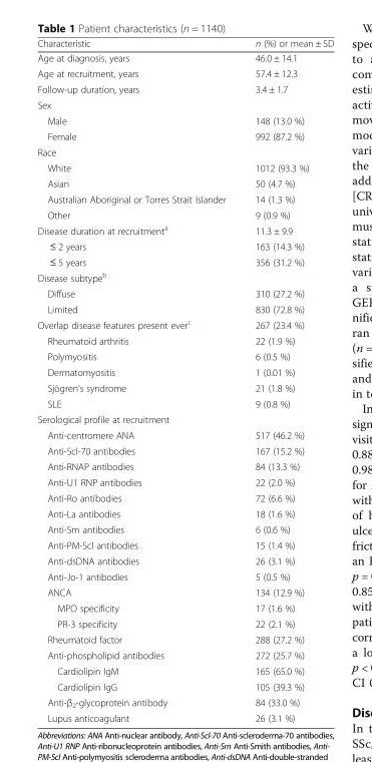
<table><thead><tr><td>Characteristic</td><td>n (%) or mean ± SD</td></tr></thead><tbody><tr><td>Age at diagnosis, years</td><td>46.0 ± 14.1</td></tr><tr><td>Age at recruitment, years</td><td>57.4 ± 12.3</td></tr><tr><td>Follow-up duration, years</td><td>3.4 ± 1.7</td></tr><tr><td colspan="2">Sex</td></tr><tr><td>Male</td><td>148 (13.0 %)</td></tr><tr><td>Female</td><td>992 (87.2 %)</td></tr><tr><td colspan="2">Race</td></tr><tr><td>White</td><td>1012 (93.3 %)</td></tr><tr><td>Asian</td><td>50 (4.7 %)</td></tr><tr><td>Australian Aboriginal or Torres Strait Islander</td><td>14 (1.3 %)</td></tr><tr><td>Other</td><td>9 (0.9 %)</td></tr><tr><td>Disease duration at recruitment<sup>a</sup></td><td>11.3 ± 9.9</td></tr><tr><td>≤ 2 years</td><td>163 (14.3 %)</td></tr><tr><td>≤ 5 years</td><td>356 (31.2 %)</td></tr><tr><td colspan="2">Disease subtype<sup>b</sup></td></tr><tr><td>Diffuse</td><td>310 (27.2 %)</td></tr><tr><td>Limited</td><td>830 (72.8 %)</td></tr><tr><td>Overlap disease features present ever<sup>c</sup></td><td>267 (23.4 %)</td></tr><tr><td>Rheumatoid arthritis</td><td>22 (1.9 %)</td></tr><tr><td>Polymyositis</td><td>6 (0.5 %)</td></tr><tr><td>Dermatomyositis</td><td>1 (0.01 %)</td></tr><tr><td>Sjögren’s syndrome</td><td>21 (1.8 %)</td></tr><tr><td>SLE</td><td>9 (0.8 %)</td></tr><tr><td colspan="2">Serological profile at recruitment</td></tr><tr><td>Anti-centromere ANA</td><td>517 (46.2 %)</td></tr><tr><td>Anti-Scl-70 antibodies</td><td>167 (15.2 %)</td></tr><tr><td>Anti-RNAP antibodies</td><td>84 (13.3 %)</td></tr><tr><td>Anti-U1 RNP antibodies</td><td>22 (2.0 %)</td></tr><tr><td>Anti-Ro antibodies</td><td>72 (6.6 %)</td></tr><tr><td>Anti-La antibodies</td><td>18 (1.6 %)</td></tr><tr><td>Anti-Sm antibodies</td><td>6 (0.6 %)</td></tr><tr><td>Anti-PM-Scl antibodies</td><td>15 (1.4 %)</td></tr><tr><td>Anti-dsDNA antibodies</td><td>26 (3.1 %)</td></tr><tr><td>Anti-Jo-1 antibodies</td><td>5 (0.5 %)</td></tr><tr><td>ANCA</td><td>134 (12.9 %)</td></tr><tr><td>MPO specificity</td><td>17 (1.6 %)</td></tr><tr><td>PR-3 specificity</td><td>22 (2.1 %)</td></tr><tr><td>Rheumatoid factor</td><td>288 (27.2 %)</td></tr><tr><td>Anti-phospholipid antibodies</td><td>272 (25.7 %)</td></tr><tr><td>Cardiolipin IgM</td><td>165 (65.0 %)</td></tr><tr><td>Cardiolipin IgG</td><td>105 (39.3 %)</td></tr><tr><td>Anti-β<sub>2</sub>-glycoprotein antibody</td><td>84 (33.0 %)</td></tr><tr><td>Lupus anticoagulant</td><td>26 (3.1 %)</td></tr></tbody></table>